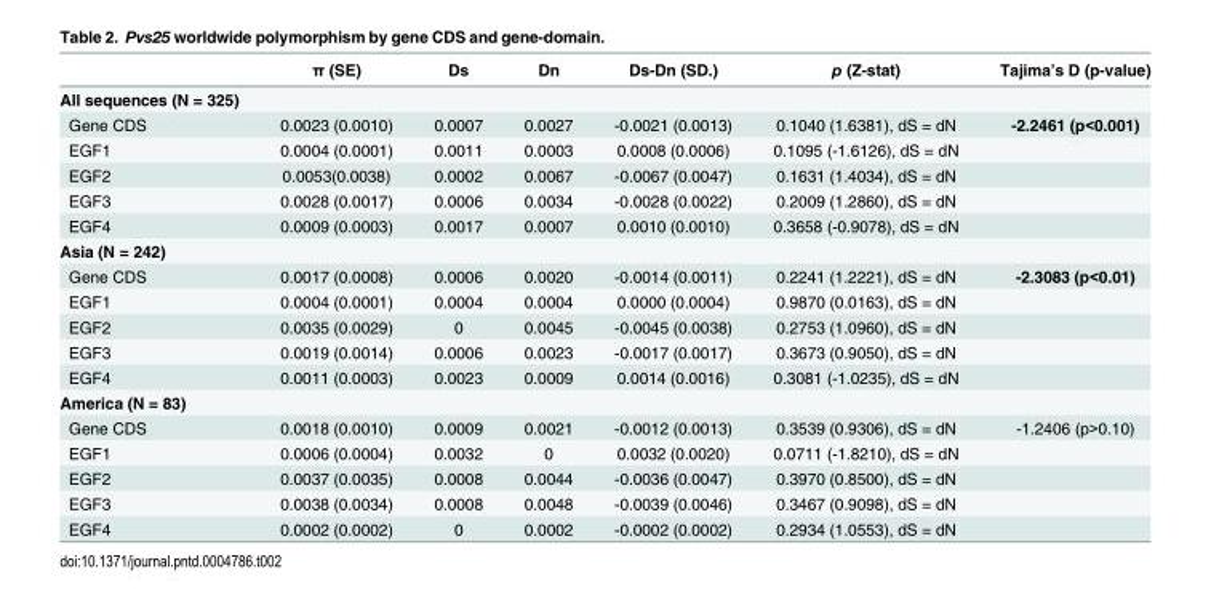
<table><thead><tr><td></td><td>π (SE)</td><td>Ds</td><td>Dn</td><td>Ds-Dn (SD.)</td><td>p (Z-stat)</td><td>Tajima’s D (p-value)</td></tr></thead><tbody><tr><td colspan="7">All sequences (N = 325)</td></tr><tr><td>Gene CDS</td><td>0.0023 (0.0010)</td><td>0.0007</td><td>0.0027</td><td>-0.0021 (0.0013)</td><td>0.1040 (1.6381), dS = dN</td><td>-2.2461 (p&lt;0.001)</td></tr><tr><td>EGF1</td><td>0.0004 (0.0001)</td><td>0.0011</td><td>0.0003</td><td>0.0008 (0.0006)</td><td>0.1095 (-1.6126), dS = dN</td><td></td></tr><tr><td>EGF2</td><td>0.0053(0.0038)</td><td>0.0002</td><td>0.0067</td><td>-0.0067 (0.0047)</td><td>0.1631 (1.4034), dS = dN</td><td></td></tr><tr><td>EGF3</td><td>0.0028 (0.0017)</td><td>0.0006</td><td>0.0034</td><td>-0.0028 (0.0022)</td><td>0.2009 (1.2860), dS = dN</td><td></td></tr><tr><td>EGF4</td><td>0.0009 (0.0003)</td><td>0.0017</td><td>0.0007</td><td>0.0010 (0.0010)</td><td>0.3658 (-0.9078), dS = dN</td><td></td></tr><tr><td colspan="7">Asia (N = 242)</td></tr><tr><td>Gene CDS</td><td>0.0017 (0.0008)</td><td>0.0006</td><td>0.0020</td><td>-0.0014 (0.0011)</td><td>0.2241 (1.2221), dS = dN</td><td>-2.3083 (p&lt;0.01)</td></tr><tr><td>EGF1</td><td>0.0004 (0.0001)</td><td>0.0004</td><td>0.0004</td><td>0.0000 (0.0004)</td><td>0.9870 (0.0163), dS = dN</td><td></td></tr><tr><td>EGF2</td><td>0.0035 (0.0029)</td><td>0</td><td>0.0045</td><td>-0.0045 (0.0038)</td><td>0.2753 (1.0960), dS = dN</td><td></td></tr><tr><td>EGF3</td><td>0.0019 (0.0014)</td><td>0.0006</td><td>0.0023</td><td>-0.0017 (0.0017)</td><td>0.3673 (0.9050), dS = dN</td><td></td></tr><tr><td>EGF4</td><td>0.0011 (0.0003)</td><td>0.0023</td><td>0.0009</td><td>0.0014 (0.0016)</td><td>0.3081 (-1.0235), dS = dN</td><td></td></tr><tr><td colspan="7">America (N = 83)</td></tr><tr><td>Gene CDS</td><td>0.0018 (0.0010)</td><td>0.0009</td><td>0.0021</td><td>-0.0012 (0.0013)</td><td>0.3539 (0.9306), dS = dN</td><td>-1.2406 (p&gt;0.10)</td></tr><tr><td>EGF1</td><td>0.0006 (0.0004)</td><td>0.0032</td><td>0</td><td>0.0032 (0.0020)</td><td>0.0711 (-1.8210), dS = dN</td><td></td></tr><tr><td>EGF2</td><td>0.0037 (0.0035)</td><td>0.0008</td><td>0.0044</td><td>-0.0036 (0.0047)</td><td>0.3970 (0.8500), dS = dN</td><td></td></tr><tr><td>EGF3</td><td>0.0038 (0.0034)</td><td>0.0008</td><td>0.0048</td><td>-0.0039 (0.0046)</td><td>0.3467 (0.9098), dS = dN</td><td></td></tr><tr><td>EGF4</td><td>0.0002 (0.0002)</td><td>0</td><td>0.0002</td><td>-0.0002 (0.0002)</td><td>0.2934 (1.0553), dS = dN</td><td></td></tr></tbody></table>